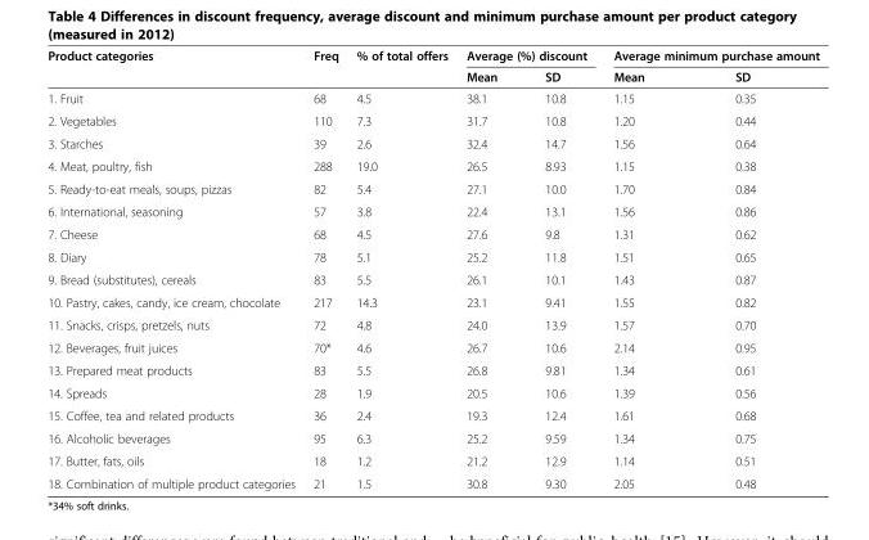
<table><thead><tr><td rowspan="2">Product categories</td><td rowspan="2">Freq</td><td rowspan="2">% of total offers</td><td colspan="2">Average (%) discount</td><td colspan="2">Average minimum purchase amount</td></tr><tr><td>Mean</td><td>SD</td><td>Mean</td><td>SD</td></tr></thead><tbody><tr><td>1. Fruit</td><td>68</td><td>4.5</td><td>38.1</td><td>10.8</td><td>1.15</td><td>0.35</td></tr><tr><td>2. Vegetables</td><td>110</td><td>7.3</td><td>31.7</td><td>10.8</td><td>1.20</td><td>0.44</td></tr><tr><td>3. Starches</td><td>39</td><td>2.6</td><td>32.4</td><td>14.7</td><td>1.56</td><td>0.64</td></tr><tr><td>4. Meat, poultry, fish</td><td>288</td><td>19.0</td><td>26.5</td><td>8.93</td><td>1.15</td><td>0.38</td></tr><tr><td>5. Ready-to-eat meals, soups, pizzas</td><td>82</td><td>5.4</td><td>27.1</td><td>10.0</td><td>1.70</td><td>0.84</td></tr><tr><td>6. International, seasoning</td><td>57</td><td>3.8</td><td>22.4</td><td>13.1</td><td>1.56</td><td>0.86</td></tr><tr><td>7. Cheese</td><td>68</td><td>4.5</td><td>27.6</td><td>9.8</td><td>1.31</td><td>0.62</td></tr><tr><td>8. Diary</td><td>78</td><td>5.1</td><td>25.2</td><td>11.8</td><td>1.51</td><td>0.65</td></tr><tr><td>9. Bread (substitutes), cereals</td><td>83</td><td>5.5</td><td>26.1</td><td>10.1</td><td>1.43</td><td>0.87</td></tr><tr><td>10. Pastry, cakes, candy, ice cream, chocolate</td><td>217</td><td>14.3</td><td>23.1</td><td>9.41</td><td>1.55</td><td>0.82</td></tr><tr><td>11. Snacks, crisps, pretzels, nuts</td><td>72</td><td>4.8</td><td>24.0</td><td>13.9</td><td>1.57</td><td>0.70</td></tr><tr><td>12. Beverages, fruit juices</td><td>70*</td><td>4.6</td><td>26.7</td><td>10.6</td><td>2.14</td><td>0.95</td></tr><tr><td>13. Prepared meat products</td><td>83</td><td>5.5</td><td>26.8</td><td>9.81</td><td>1.34</td><td>0.61</td></tr><tr><td>14. Spreads</td><td>28</td><td>1.9</td><td>20.5</td><td>10.6</td><td>1.39</td><td>0.56</td></tr><tr><td>15. Coffee, tea and related products</td><td>36</td><td>2.4</td><td>19.3</td><td>12.4</td><td>1.61</td><td>0.68</td></tr><tr><td>16. Alcoholic beverages</td><td>95</td><td>6.3</td><td>25.2</td><td>9.59</td><td>1.34</td><td>0.75</td></tr><tr><td>17. Butter, fats, oils</td><td>18</td><td>1.2</td><td>21.2</td><td>12.9</td><td>1.14</td><td>0.51</td></tr><tr><td>18. Combination of multiple product categories</td><td>21</td><td>1.5</td><td>30.8</td><td>9.30</td><td>2.05</td><td>0.48</td></tr></tbody></table>